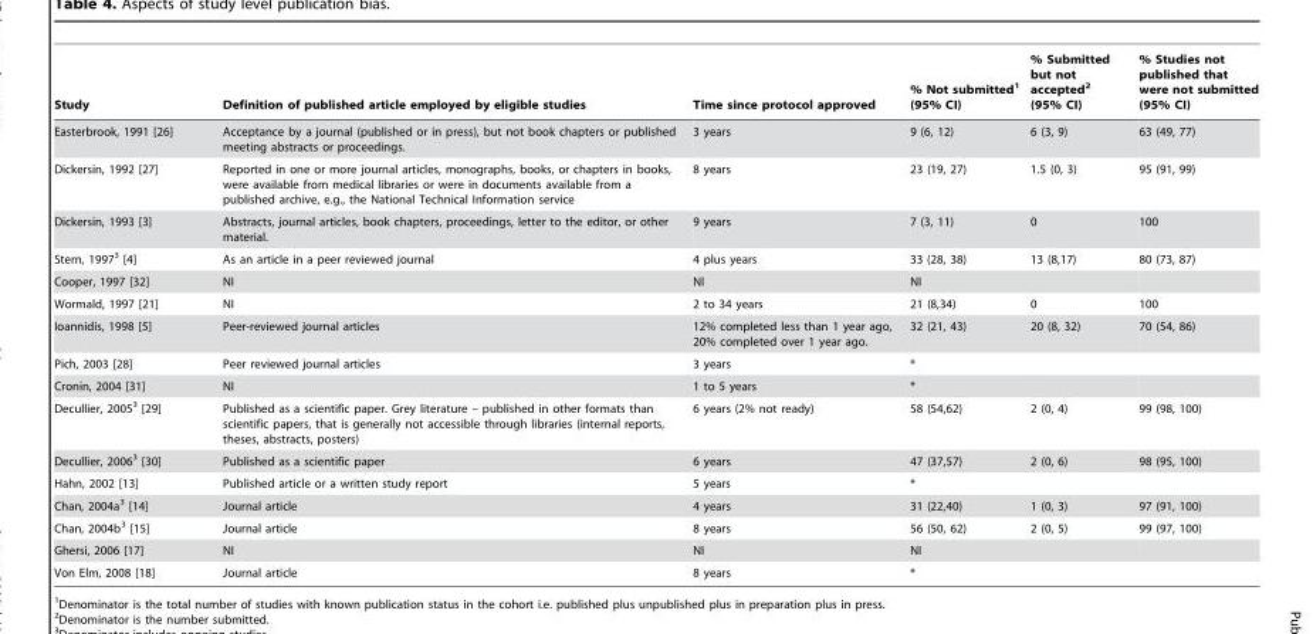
<table><thead><tr><td>Study</td><td>Definition of published article employed by eligible studies</td><td>Time since protocol approved</td><td>% Not submitted<sup>1</sup> (95% CI)</td><td>% Submitted but not accepted<sup>2</sup> (95% CI)</td><td>% Studies not published that were not submitted (95% CI)</td></tr></thead><tbody><tr><td>Easterbrook, 1991 [26]</td><td>Acceptance by a journal (published or in press), but not book chapters or published meeting abstracts or proceedings.</td><td>3 years</td><td>9 (6, 12)</td><td>6 (3, 9)</td><td>63 (49, 77)</td></tr><tr><td>Dickersin, 1992 [27]</td><td>Reported in one or more journal articles, monographs, books, or chapters in books, were available from medical libraries or were in documents available from a published archive, e.g., the National Technical Information service</td><td>8 years</td><td>23 (19, 27)</td><td>1.5 (0, 3)</td><td>95 (91, 99)</td></tr><tr><td>Dickersin, 1993 [3]</td><td>Abstracts, journal articles, book chapters, proceedings, letter to the editor, or other material.</td><td>9 years</td><td>7 (3, 11)</td><td>0</td><td>100</td></tr><tr><td>Stern, 1997<sup>3</sup> [4]</td><td>As an article in a peer reviewed journal</td><td>4 plus years</td><td>33 (28, 38)</td><td>13 (8,17)</td><td>80 (73, 87)</td></tr><tr><td>Cooper, 1997 [32]</td><td>NI</td><td>NI</td><td>NI</td><td></td><td></td></tr><tr><td>Wormald, 1997 [21]</td><td>NI</td><td>2 to 34 years</td><td>21 (8,34)</td><td>0</td><td>100</td></tr><tr><td>Ioannidis, 1998 [5]</td><td>Peer-reviewed journal articles</td><td>12% completed less than 1 year ago, 20% completed over 1 year ago.</td><td>32 (21, 43)</td><td>20 (8, 32)</td><td>70 (54, 86)</td></tr><tr><td>Pich, 2003 [28]</td><td>Peer reviewed journal articles</td><td>3 years</td><td>*</td><td></td><td></td></tr><tr><td>Cronin, 2004 [31]</td><td>NI</td><td>1 to 5 years</td><td>*</td><td></td><td></td></tr><tr><td>Decullier, 2005<sup>3</sup> [29]</td><td>Published as a scientific paper. Grey literature – published in other formats than scientific papers, that is generally not accessible through libraries (internal reports, theses, abstracts, posters)</td><td>6 years (2% not ready)</td><td>58 (54,62)</td><td>2 (0, 4)</td><td>99 (98, 100)</td></tr><tr><td>Decullier, 2006<sup>3</sup> [30]</td><td>Published as a scientific paper</td><td>6 years</td><td>47 (37,57)</td><td>2 (0, 6)</td><td>98 (95, 100)</td></tr><tr><td>Hahn, 2002 [13]</td><td>Published article or a written study report</td><td>5 years</td><td>*</td><td></td><td></td></tr><tr><td>Chan, 2004a<sup>3</sup> [14]</td><td>Journal article</td><td>4 years</td><td>31 (22,40)</td><td>1 (0, 3)</td><td>97 (91, 100)</td></tr><tr><td>Chan, 2004b<sup>3</sup> [15]</td><td>Journal article</td><td>8 years</td><td>56 (50, 62)</td><td>2 (0, 5)</td><td>99 (97, 100)</td></tr><tr><td>Ghersi, 2006 [17]</td><td>NI</td><td>NI</td><td>NI</td><td></td><td></td></tr><tr><td>Von Elm, 2008 [18]</td><td>Journal article</td><td>8 years</td><td>*</td><td></td><td></td></tr></tbody></table>